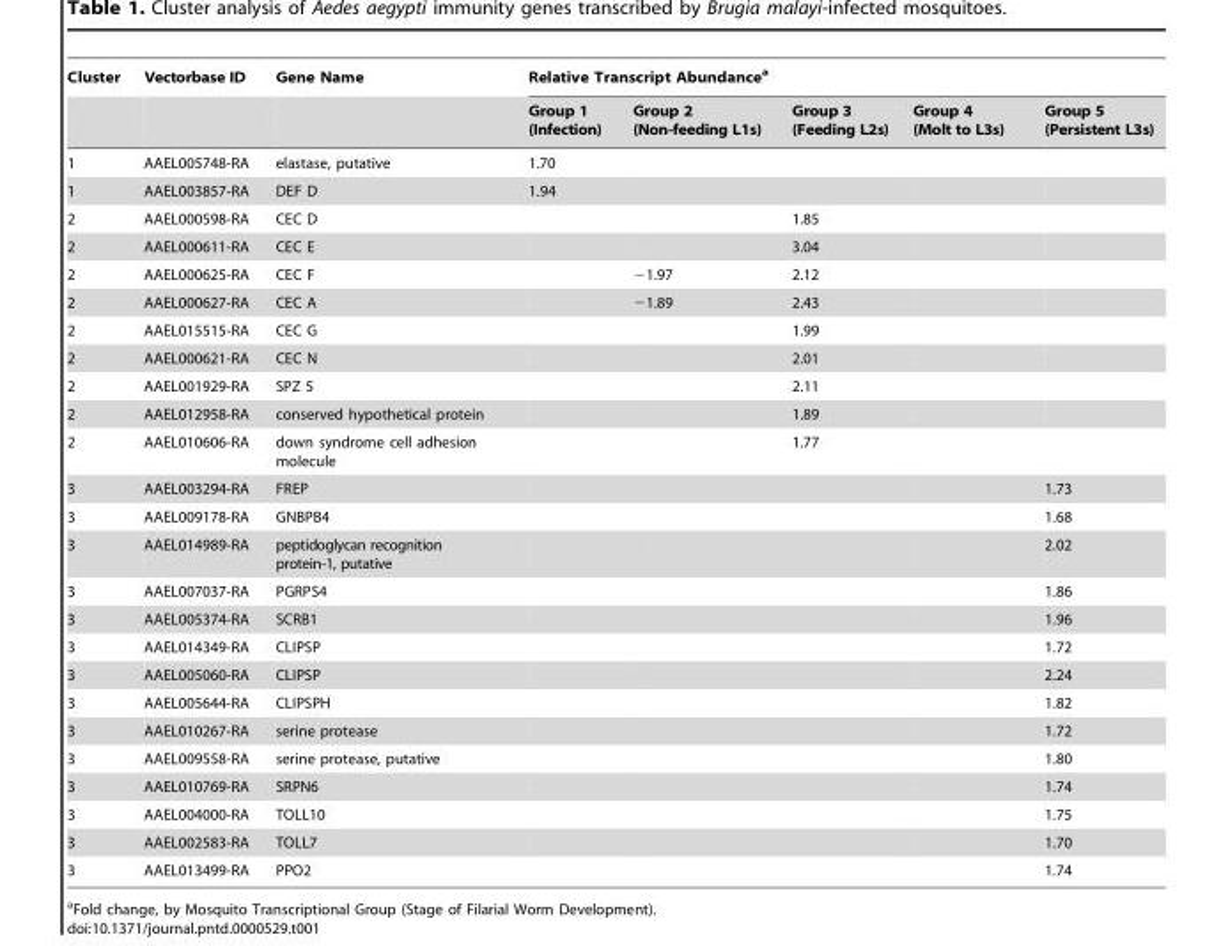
<table><thead><tr><td rowspan="2">Cluster</td><td rowspan="2">Vectorbase ID</td><td rowspan="2">Gene Name</td><td colspan="5">Relative Transcript Abundance<sup>a</sup></td></tr><tr><td>Group 1 (Infection)</td><td>Group 2 (Non-feeding L1s)</td><td>Group 3 (Feeding L2s)</td><td>Group 4 (Molt to L3s)</td><td>Group 5 (Persistent L3s)</td></tr></thead><tbody><tr><td>1</td><td>AAEL005748-RA</td><td>elastase, putative</td><td>1.70</td><td></td><td></td><td></td><td></td></tr><tr><td>1</td><td>AAEL003857-RA</td><td>DEF D</td><td>1.94</td><td></td><td></td><td></td><td></td></tr><tr><td>2</td><td>AAEL000598-RA</td><td>CEC D</td><td></td><td></td><td>1.85</td><td></td><td></td></tr><tr><td>2</td><td>AAEL000611-RA</td><td>CEC E</td><td></td><td></td><td>3.04</td><td></td><td></td></tr><tr><td>2</td><td>AAEL000625-RA</td><td>CEC F</td><td></td><td>−1.97</td><td>2.12</td><td></td><td></td></tr><tr><td>2</td><td>AAEL000627-RA</td><td>CEC A</td><td></td><td>−1.89</td><td>2.43</td><td></td><td></td></tr><tr><td>2</td><td>AAEL015515-RA</td><td>CEC G</td><td></td><td></td><td>1.99</td><td></td><td></td></tr><tr><td>2</td><td>AAEL000621-RA</td><td>CEC N</td><td></td><td></td><td>2.01</td><td></td><td></td></tr><tr><td>2</td><td>AAEL001929-RA</td><td>SPZ 5</td><td></td><td></td><td>2.11</td><td></td><td></td></tr><tr><td>2</td><td>AAEL012958-RA</td><td>conserved hypothetical protein</td><td></td><td></td><td>1.89</td><td></td><td></td></tr><tr><td>2</td><td>AAEL010606-RA</td><td>down syndrome cell adhesion molecule</td><td></td><td></td><td>1.77</td><td></td><td></td></tr><tr><td>3</td><td>AAEL003294-RA</td><td>FREP</td><td></td><td></td><td></td><td></td><td>1.73</td></tr><tr><td>3</td><td>AAEL009178-RA</td><td>GNBPB4</td><td></td><td></td><td></td><td></td><td>1.68</td></tr><tr><td>3</td><td>AAEL014989-RA</td><td>peptidoglycan recognition protein-1, putative</td><td></td><td></td><td></td><td></td><td>2.02</td></tr><tr><td>3</td><td>AAEL007037-RA</td><td>PGRPS4</td><td></td><td></td><td></td><td></td><td>1.86</td></tr><tr><td>3</td><td>AAEL005374-RA</td><td>SCRB1</td><td></td><td></td><td></td><td></td><td>1.96</td></tr><tr><td>3</td><td>AAEL014349-RA</td><td>CLIPSP</td><td></td><td></td><td></td><td></td><td>1.72</td></tr><tr><td>3</td><td>AAEL005060-RA</td><td>CLIPSP</td><td></td><td></td><td></td><td></td><td>2.24</td></tr><tr><td>3</td><td>AAEL005644-RA</td><td>CLIPSPH</td><td></td><td></td><td></td><td></td><td>1.82</td></tr><tr><td>3</td><td>AAEL010267-RA</td><td>serine protease</td><td></td><td></td><td></td><td></td><td>1.72</td></tr><tr><td>3</td><td>AAEL009558-RA</td><td>serine protease, putative</td><td></td><td></td><td></td><td></td><td>1.80</td></tr><tr><td>3</td><td>AAEL010769-RA</td><td>SRPN6</td><td></td><td></td><td></td><td></td><td>1.74</td></tr><tr><td>3</td><td>AAEL004000-RA</td><td>TOLL10</td><td></td><td></td><td></td><td></td><td>1.75</td></tr><tr><td>3</td><td>AAEL002583-RA</td><td>TOLL7</td><td></td><td></td><td></td><td></td><td>1.70</td></tr><tr><td>3</td><td>AAEL013499-RA</td><td>PPO2</td><td></td><td></td><td></td><td></td><td>1.74</td></tr></tbody></table>